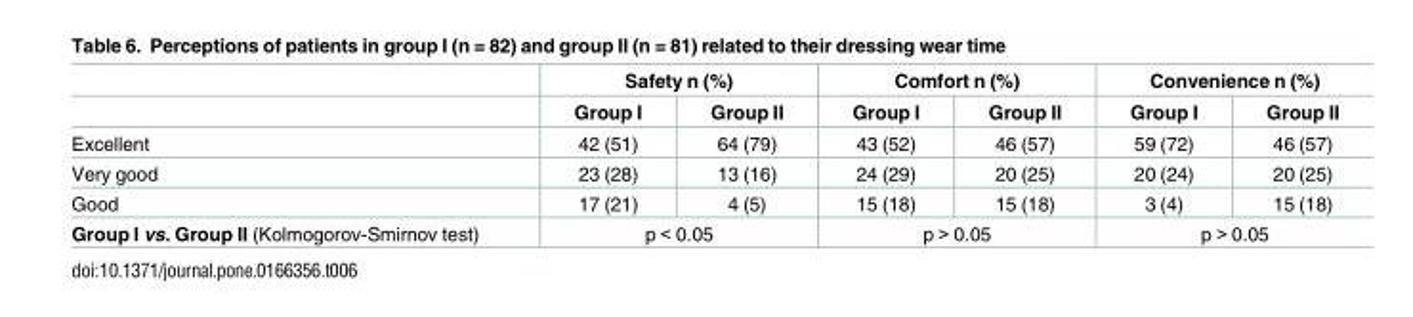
<table><thead><tr><td rowspan="2"></td><td colspan="2">Safety n (%)</td><td colspan="2">Comfort n (%)</td><td colspan="2">Convenience n (%)</td></tr><tr><td>Group I</td><td>Group II</td><td>Group I</td><td>Group II</td><td>Group I</td><td>Group II</td></tr></thead><tbody><tr><td>Excellent</td><td>42 (51)</td><td>64 (79)</td><td>43 (52)</td><td>46 (57)</td><td>59 (72)</td><td>46 (57)</td></tr><tr><td>Very good</td><td>23 (28)</td><td>13 (16)</td><td>24 (29)</td><td>20 (25)</td><td>20 (24)</td><td>20 (25)</td></tr><tr><td>Good</td><td>17 (21)</td><td>4 (5)</td><td>15 (18)</td><td>15 (18)</td><td>3 (4)</td><td>15 (18)</td></tr><tr><td>Group I vs. Group II (Kolmogorov-Smirnov test)</td><td colspan="2">p &lt; 0.05</td><td colspan="2">p &gt; 0.05</td><td colspan="2">p &gt; 0.05</td></tr></tbody></table>